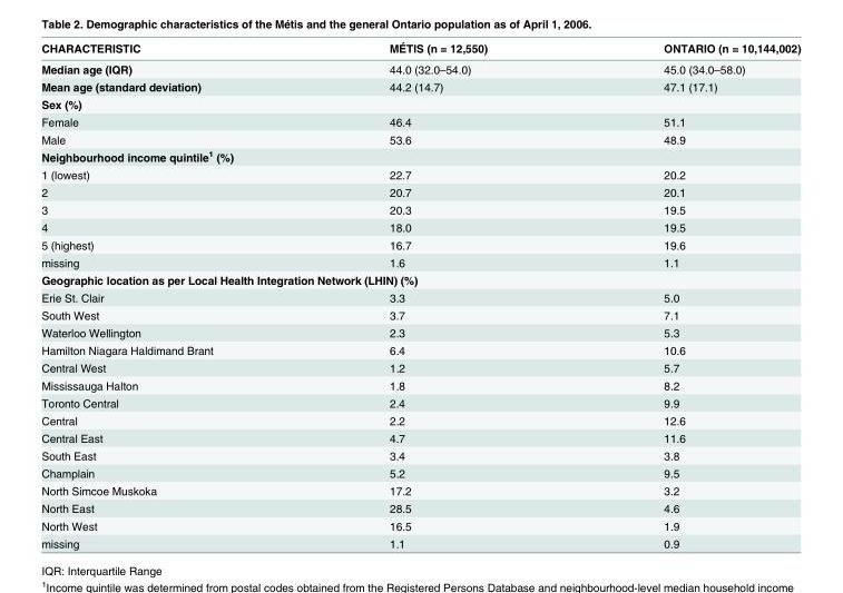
<table><thead><tr><td>CHARACTERISTIC</td><td>MÉTIS (n = 12,550)</td><td>ONTARIO (n = 10,144,002)</td></tr></thead><tbody><tr><td>Median age (IQR)</td><td>44.0 (32.0–54.0)</td><td>45.0 (34.0–58.0)</td></tr><tr><td>Mean age (standard deviation)</td><td>44.2 (14.7)</td><td>47.1 (17.1)</td></tr><tr><td colspan="3">Sex (%)</td></tr><tr><td>Female</td><td>46.4</td><td>51.1</td></tr><tr><td>Male</td><td>53.6</td><td>48.9</td></tr><tr><td colspan="3">Neighbourhood income quintile<sup>1</sup> (%)</td></tr><tr><td>1 (lowest)</td><td>22.7</td><td>20.2</td></tr><tr><td>2</td><td>20.7</td><td>20.1</td></tr><tr><td>3</td><td>20.3</td><td>19.5</td></tr><tr><td>4</td><td>18.0</td><td>19.5</td></tr><tr><td>5 (highest)</td><td>16.7</td><td>19.6</td></tr><tr><td>missing</td><td>1.6</td><td>1.1</td></tr><tr><td colspan="3">Geographic location as per Local Health Integration Network (LHIN) (%)</td></tr><tr><td>Erie St. Clair</td><td>3.3</td><td>5.0</td></tr><tr><td>South West</td><td>3.7</td><td>7.1</td></tr><tr><td>Waterloo Wellington</td><td>2.3</td><td>5.3</td></tr><tr><td>Hamilton Niagara Haldimand Brant</td><td>6.4</td><td>10.6</td></tr><tr><td>Central West</td><td>1.2</td><td>5.7</td></tr><tr><td>Mississauga Halton</td><td>1.8</td><td>8.2</td></tr><tr><td>Toronto Central</td><td>2.4</td><td>9.9</td></tr><tr><td>Central</td><td>2.2</td><td>12.6</td></tr><tr><td>Central East</td><td>4.7</td><td>11.6</td></tr><tr><td>South East</td><td>3.4</td><td>3.8</td></tr><tr><td>Champlain</td><td>5.2</td><td>9.5</td></tr><tr><td>North Simcoe Muskoka</td><td>17.2</td><td>3.2</td></tr><tr><td>North East</td><td>28.5</td><td>4.6</td></tr><tr><td>North West</td><td>16.5</td><td>1.9</td></tr><tr><td>missing</td><td>1.1</td><td>0.9</td></tr></tbody></table>